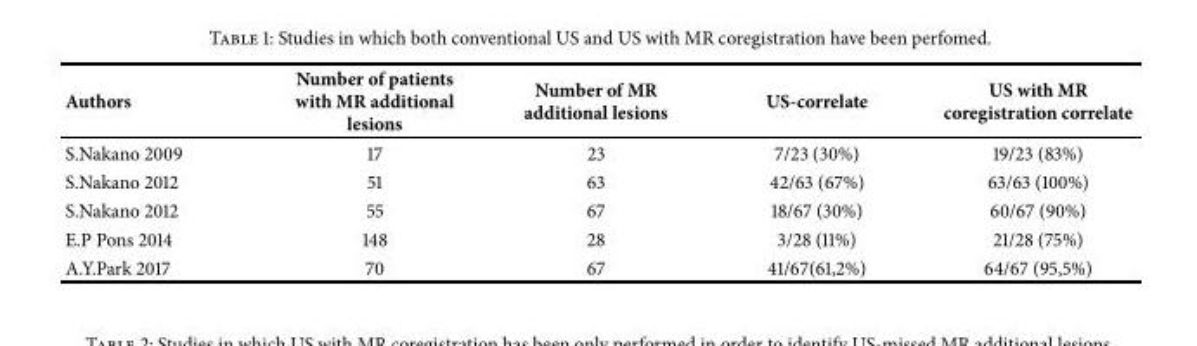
<table><thead><tr><td>Authors</td><td>Number of patients with MR additional lesions</td><td>Number of MR additional lesions</td><td>US-correlate</td><td>US with MR coregistration correlate</td></tr></thead><tbody><tr><td>S.Nakano 2009</td><td>17</td><td>23</td><td>7/23 (30%)</td><td>19/23 (83%)</td></tr><tr><td>S.Nakano 2012</td><td>51</td><td>63</td><td>42/63 (67%)</td><td>63/63 (100%)</td></tr><tr><td>S.Nakano 2012</td><td>55</td><td>67</td><td>18/67 (30%)</td><td>60/67 (90%)</td></tr><tr><td>E.P Pons 2014</td><td>148</td><td>28</td><td>3/28 (11%)</td><td>21/28 (75%)</td></tr><tr><td>A.Y.Park 2017</td><td>70</td><td>67</td><td>41/67(61,2%)</td><td>64/67 (95,5%)</td></tr></tbody></table>